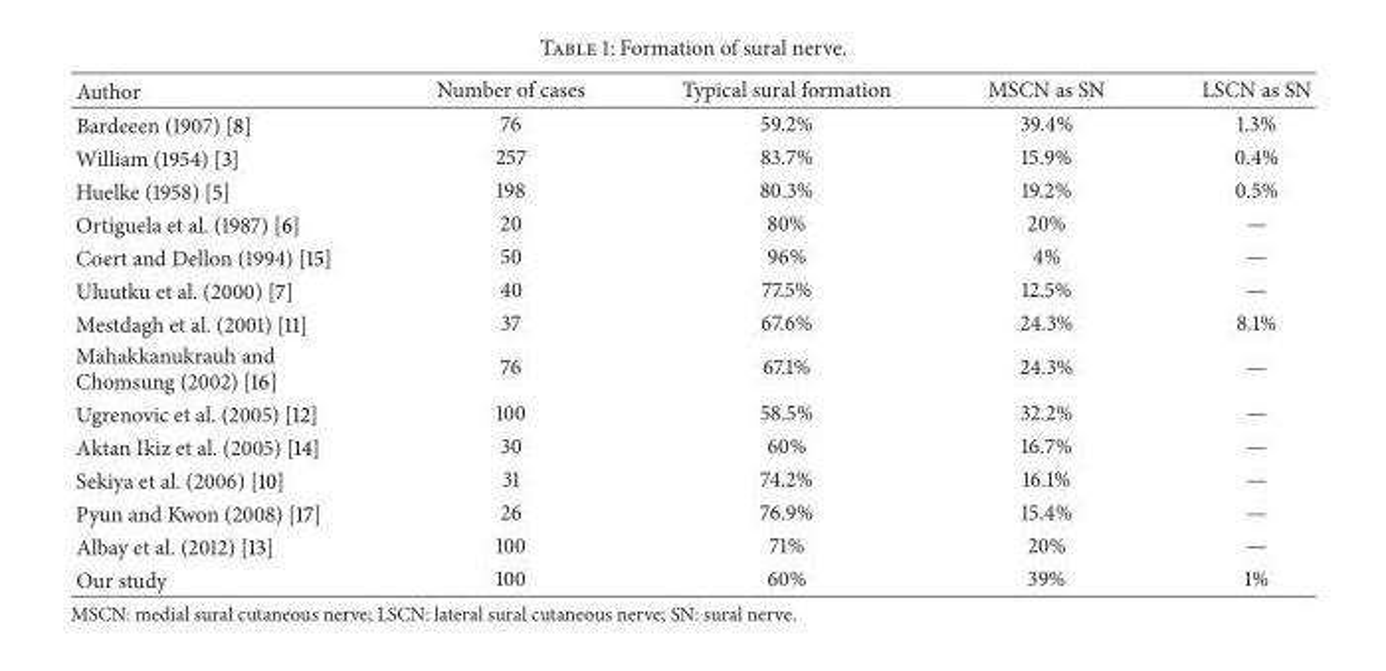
<table><thead><tr><td>Author</td><td>Number of cases</td><td>Typical sural formation</td><td>MSCN as SN</td><td>LSCN as SN</td></tr></thead><tbody><tr><td>Bardeeen (1907) [8]</td><td>76</td><td>59.2%</td><td>39.4%</td><td>1.3%</td></tr><tr><td>William (1954) [3]</td><td>257</td><td>83.7%</td><td>15.9%</td><td>0.4%</td></tr><tr><td>Huelke (1958) [5]</td><td>198</td><td>80.3%</td><td>19.2%</td><td>0.5%</td></tr><tr><td>Ortiguela et al. (1987) [6]</td><td>20</td><td>80%</td><td>20%</td><td>—</td></tr><tr><td>Coert and Dellon (1994) [15]</td><td>50</td><td>96%</td><td>4%</td><td>—</td></tr><tr><td>Uluutku et al. (2000) [7]</td><td>40</td><td>77.5%</td><td>12.5%</td><td>—</td></tr><tr><td>Mestdagh et al. (2001) [11]</td><td>37</td><td>67.6%</td><td>24.3%</td><td>8.1%</td></tr><tr><td>Mahakkanukrauh and Chomsung (2002) [16]</td><td>76</td><td>67.1%</td><td>24.3%</td><td>—</td></tr><tr><td>Ugrenovic et al. (2005) [12]</td><td>100</td><td>58.5%</td><td>32.2%</td><td>—</td></tr><tr><td>Aktan Ikiz et al. (2005) [14]</td><td>30</td><td>60%</td><td>16.7%</td><td>—</td></tr><tr><td>Sekiya et al. (2006) [10]</td><td>31</td><td>74.2%</td><td>16.1%</td><td>—</td></tr><tr><td>Pyun and Kwon (2008) [17]</td><td>26</td><td>76.9%</td><td>15.4%</td><td>—</td></tr><tr><td>Albay et al. (2012) [13]</td><td>100</td><td>71%</td><td>20%</td><td>—</td></tr><tr><td>Our study</td><td>100</td><td>60%</td><td>39%</td><td>1%</td></tr></tbody></table>